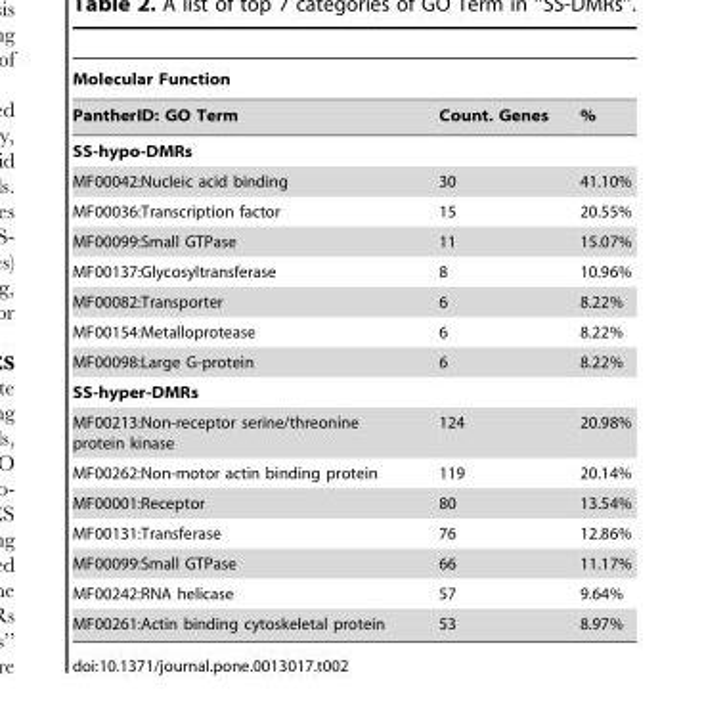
<table><thead><tr><td colspan="3">Molecular Function</td></tr><tr><td>PantherID: GO Term</td><td>Count. Genes</td><td>%</td></tr></thead><tbody><tr><td colspan="3">SS-hypo-DMRs</td></tr><tr><td>MF00042:Nucleic acid binding</td><td>30</td><td>41.10%</td></tr><tr><td>MF00036:Transcription factor</td><td>15</td><td>20.55%</td></tr><tr><td>MF00099:Small GTPase</td><td>11</td><td>15.07%</td></tr><tr><td>MF00137:Glycosyltransferase</td><td>8</td><td>10.96%</td></tr><tr><td>MF00082:Transporter</td><td>6</td><td>8.22%</td></tr><tr><td>MF00154:Metalloprotease</td><td>6</td><td>8.22%</td></tr><tr><td>MF00098:Large G-protein</td><td>6</td><td>8.22%</td></tr><tr><td colspan="3">SS-hyper-DMRs</td></tr><tr><td>MF00213:Non-receptor serine/threonine protein kinase</td><td>124</td><td>20.98%</td></tr><tr><td>MF00262:Non-motor actin binding protein</td><td>119</td><td>20.14%</td></tr><tr><td>MF00001:Receptor</td><td>80</td><td>13.54%</td></tr><tr><td>MF00131:Transferase</td><td>76</td><td>12.86%</td></tr><tr><td>MF00099:Small GTPase</td><td>66</td><td>11.17%</td></tr><tr><td>MF00242:RNA helicase</td><td>57</td><td>9.64%</td></tr><tr><td>MF00261:Actin binding cytoskeletal protein</td><td>53</td><td>8.97%</td></tr></tbody></table>